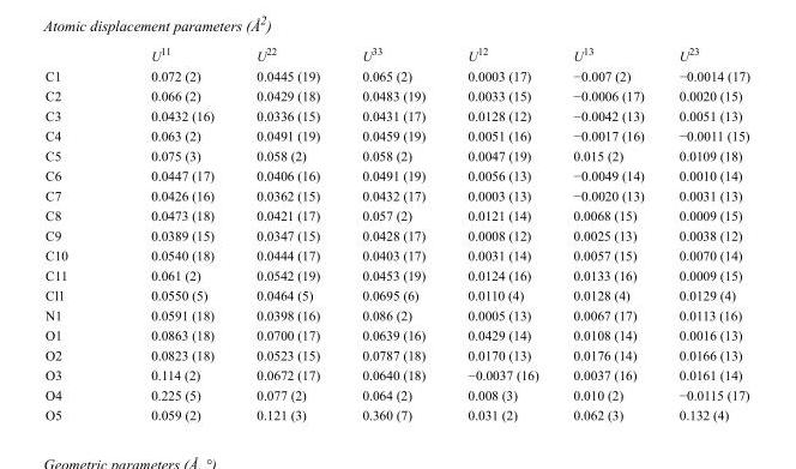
<table><thead><tr><td></td><td>U<sup>11</sup></td><td>U<sup>22</sup></td><td>U<sup>33</sup></td><td>U<sup>12</sup></td><td>U<sup>13</sup></td><td>U<sup>23</sup></td></tr></thead><tbody><tr><td>C1</td><td>0.072 (2)</td><td>0.0445 (19)</td><td>0.065 (2)</td><td>0.0003 (17)</td><td>−0.007 (2)</td><td>−0.0014 (17)</td></tr><tr><td>C2</td><td>0.066 (2)</td><td>0.0429 (18)</td><td>0.0483 (19)</td><td>0.0033 (15)</td><td>−0.0006 (17)</td><td>0.0020 (15)</td></tr><tr><td>C3</td><td>0.0432 (16)</td><td>0.0336 (15)</td><td>0.0431 (17)</td><td>0.0128 (12)</td><td>−0.0042 (13)</td><td>0.0051 (13)</td></tr><tr><td>C4</td><td>0.063 (2)</td><td>0.0491 (19)</td><td>0.0459 (19)</td><td>0.0051 (16)</td><td>−0.0017 (16)</td><td>−0.0011 (15)</td></tr><tr><td>C5</td><td>0.075 (3)</td><td>0.058 (2)</td><td>0.058 (2)</td><td>0.0047 (19)</td><td>0.015 (2)</td><td>0.0109 (18)</td></tr><tr><td>C6</td><td>0.0447 (17)</td><td>0.0406 (16)</td><td>0.0491 (19)</td><td>0.0056 (13)</td><td>−0.0049 (14)</td><td>0.0010 (14)</td></tr><tr><td>C7</td><td>0.0426 (16)</td><td>0.0362 (15)</td><td>0.0432 (17)</td><td>0.0003 (13)</td><td>−0.0020 (13)</td><td>0.0031 (13)</td></tr><tr><td>C8</td><td>0.0473 (18)</td><td>0.0421 (17)</td><td>0.057 (2)</td><td>0.0121 (14)</td><td>0.0068 (15)</td><td>0.0009 (15)</td></tr><tr><td>C9</td><td>0.0389 (15)</td><td>0.0347 (15)</td><td>0.0428 (17)</td><td>0.0008 (12)</td><td>0.0025 (13)</td><td>0.0038 (12)</td></tr><tr><td>C10</td><td>0.0540 (18)</td><td>0.0444 (17)</td><td>0.0403 (17)</td><td>0.0031 (14)</td><td>0.0057 (15)</td><td>0.0070 (14)</td></tr><tr><td>C11</td><td>0.061 (2)</td><td>0.0542 (19)</td><td>0.0453 (19)</td><td>0.0124 (16)</td><td>0.0133 (16)</td><td>0.0009 (15)</td></tr><tr><td>Cl1</td><td>0.0550 (5)</td><td>0.0464 (5)</td><td>0.0695 (6)</td><td>0.0110 (4)</td><td>0.0128 (4)</td><td>0.0129 (4)</td></tr><tr><td>N1</td><td>0.0591 (18)</td><td>0.0398 (16)</td><td>0.086 (2)</td><td>0.0005 (13)</td><td>0.0067 (17)</td><td>0.0113 (16)</td></tr><tr><td>O1</td><td>0.0863 (18)</td><td>0.0700 (17)</td><td>0.0639 (16)</td><td>0.0429 (14)</td><td>0.0108 (14)</td><td>0.0016 (13)</td></tr><tr><td>O2</td><td>0.0823 (18)</td><td>0.0523 (15)</td><td>0.0787 (18)</td><td>0.0170 (13)</td><td>0.0176 (14)</td><td>0.0166 (13)</td></tr><tr><td>O3</td><td>0.114 (2)</td><td>0.0672 (17)</td><td>0.0640 (18)</td><td>−0.0037 (16)</td><td>0.0037 (16)</td><td>0.0161 (14)</td></tr><tr><td>O4</td><td>0.225 (5)</td><td>0.077 (2)</td><td>0.064 (2)</td><td>0.008 (3)</td><td>0.010 (2)</td><td>−0.0115 (17)</td></tr><tr><td>O5</td><td>0.059 (2)</td><td>0.121 (3)</td><td>0.360 (7)</td><td>0.031 (2)</td><td>0.062 (3)</td><td>0.132 (4)</td></tr></tbody></table>